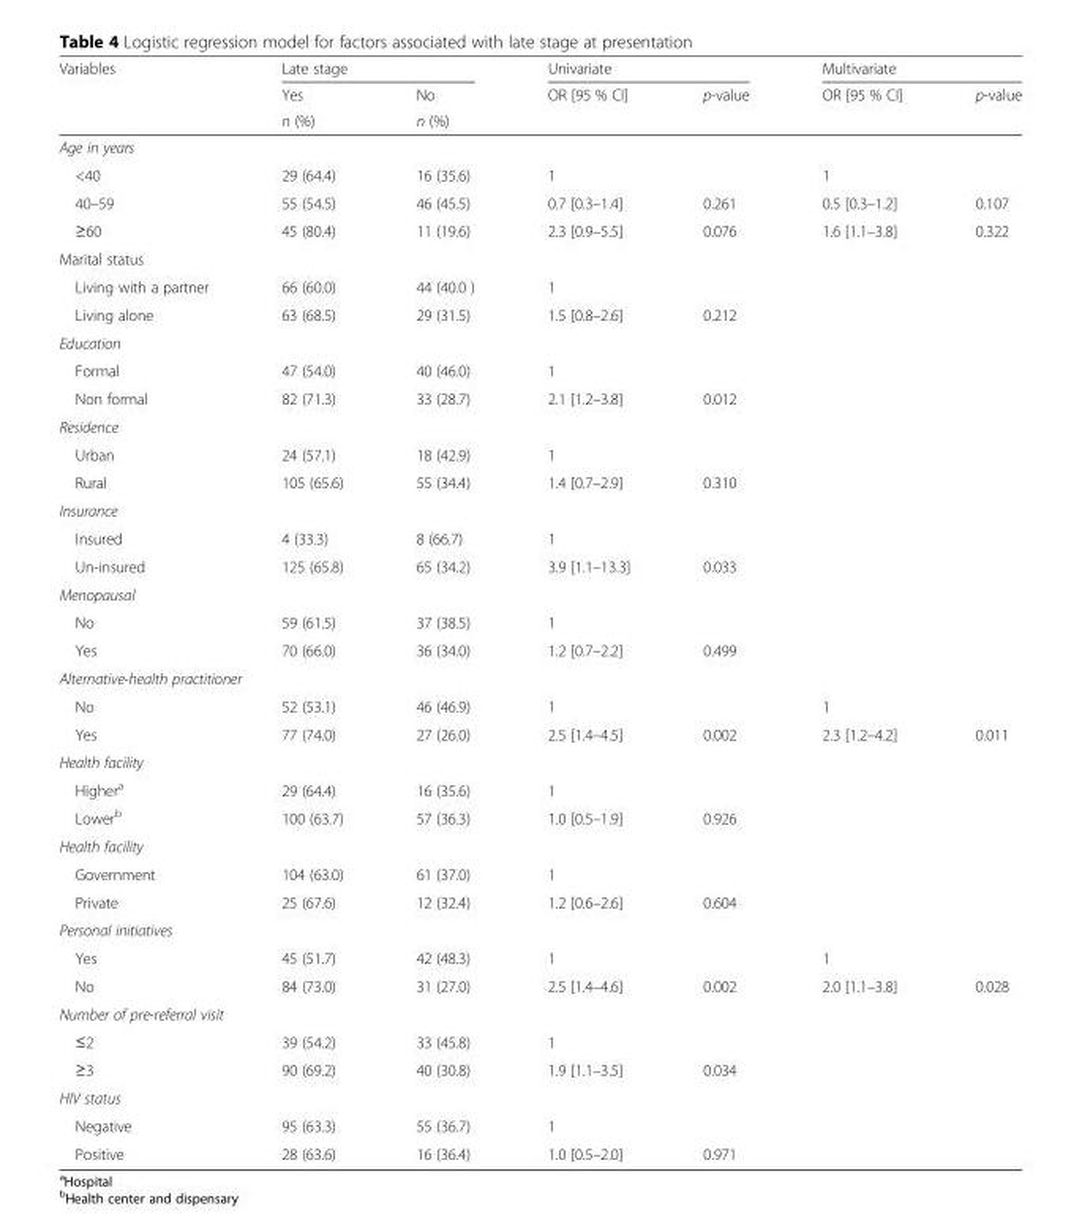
<table><thead><tr><td rowspan="3">Variables</td><td colspan="2">Late stage</td><td colspan="2">Univariate</td><td colspan="2">Multivariate</td></tr><tr><td rowspan="2">Yes n (%)</td><td rowspan="2">No n (%)</td><td rowspan="2">OR [95 % CI]</td><td rowspan="2">p-value</td><td rowspan="2">OR [95 % CI]</td><td rowspan="2">p-value</td></tr><tr></tr></thead><tbody><tr><td colspan="7">Age in years</td></tr><tr><td>&lt;40</td><td>29 (64.4)</td><td>16 (35.6)</td><td>1</td><td></td><td>1</td><td></td></tr><tr><td>40–59</td><td>55 (54.5)</td><td>46 (45.5)</td><td>0.7 [0.3–1.4]</td><td>0.261</td><td>0.5 [0.3–1.2]</td><td>0.107</td></tr><tr><td>≥60</td><td>45 (80.4)</td><td>11 (19.6)</td><td>2.3 [0.9–5.5]</td><td>0.076</td><td>1.6 [1.1–3.8]</td><td>0.322</td></tr><tr><td colspan="7">Marital status</td></tr><tr><td>Living with a partner</td><td>66 (60.0)</td><td>44 (40.0 )</td><td>1</td><td></td><td></td><td></td></tr><tr><td>Living alone</td><td>63 (68.5)</td><td>29 (31.5)</td><td>1.5 [0.8–2.6]</td><td>0.212</td><td></td><td></td></tr><tr><td colspan="7">Education</td></tr><tr><td>Formal</td><td>47 (54.0)</td><td>40 (46.0)</td><td>1</td><td></td><td></td><td></td></tr><tr><td>Non formal</td><td>82 (71.3)</td><td>33 (28.7)</td><td>2.1 [1.2–3.8]</td><td>0.012</td><td></td><td></td></tr><tr><td colspan="7">Residence</td></tr><tr><td>Urban</td><td>24 (57.1)</td><td>18 (42.9)</td><td>1</td><td></td><td></td><td></td></tr><tr><td>Rural</td><td>105 (65.6)</td><td>55 (34.4)</td><td>1.4 [0.7–2.9]</td><td>0.310</td><td></td><td></td></tr><tr><td colspan="7">Insurance</td></tr><tr><td>Insured</td><td>4 (33.3)</td><td>8 (66.7)</td><td>1</td><td></td><td></td><td></td></tr><tr><td>Un-insured</td><td>125 (65.8)</td><td>65 (34.2)</td><td>3.9 [1.1–13.3]</td><td>0.033</td><td></td><td></td></tr><tr><td colspan="7">Menopausal</td></tr><tr><td>No</td><td>59 (61.5)</td><td>37 (38.5)</td><td>1</td><td></td><td></td><td></td></tr><tr><td>Yes</td><td>70 (66.0)</td><td>36 (34.0)</td><td>1.2 [0.7–2.2]</td><td>0.499</td><td></td><td></td></tr><tr><td colspan="7">Alternative-health practitioner</td></tr><tr><td>No</td><td>52 (53.1)</td><td>46 (46.9)</td><td>1</td><td></td><td>1</td><td></td></tr><tr><td>Yes</td><td>77 (74.0)</td><td>27 (26.0)</td><td>2.5 [1.4–4.5]</td><td>0.002</td><td>2.3 [1.2–4.2]</td><td>0.011</td></tr><tr><td colspan="7">Health facility</td></tr><tr><td>Higher<sup>a</sup></td><td>29 (64.4)</td><td>16 (35.6)</td><td>1</td><td></td><td></td><td></td></tr><tr><td>Lower<sup>b</sup></td><td>100 (63.7)</td><td>57 (36.3)</td><td>1.0 [0.5–1.9]</td><td>0.926</td><td></td><td></td></tr><tr><td colspan="7">Health facility</td></tr><tr><td>Government</td><td>104 (63.0)</td><td>61 (37.0)</td><td>1</td><td></td><td></td><td></td></tr><tr><td>Private</td><td>25 (67.6)</td><td>12 (32.4)</td><td>1.2 [0.6–2.6]</td><td>0.604</td><td></td><td></td></tr><tr><td colspan="7">Personal initiatives</td></tr><tr><td>Yes</td><td>45 (51.7)</td><td>42 (48.3)</td><td>1</td><td></td><td>1</td><td></td></tr><tr><td>No</td><td>84 (73.0)</td><td>31 (27.0)</td><td>2.5 [1.4–4.6]</td><td>0.002</td><td>2.0 [1.1–3.8]</td><td>0.028</td></tr><tr><td colspan="7">Number of pre-referral visit</td></tr><tr><td>≤2</td><td>39 (54.2)</td><td>33 (45.8)</td><td>1</td><td></td><td></td><td></td></tr><tr><td>≥3</td><td>90 (69.2)</td><td>40 (30.8)</td><td>1.9 [1.1–3.5]</td><td>0.034</td><td></td><td></td></tr><tr><td colspan="7">HIV status</td></tr><tr><td>Negative</td><td>95 (63.3)</td><td>55 (36.7)</td><td>1</td><td></td><td></td><td></td></tr><tr><td>Positive</td><td>28 (63.6)</td><td>16 (36.4)</td><td>1.0 [0.5–2.0]</td><td>0.971</td><td></td><td></td></tr></tbody></table>